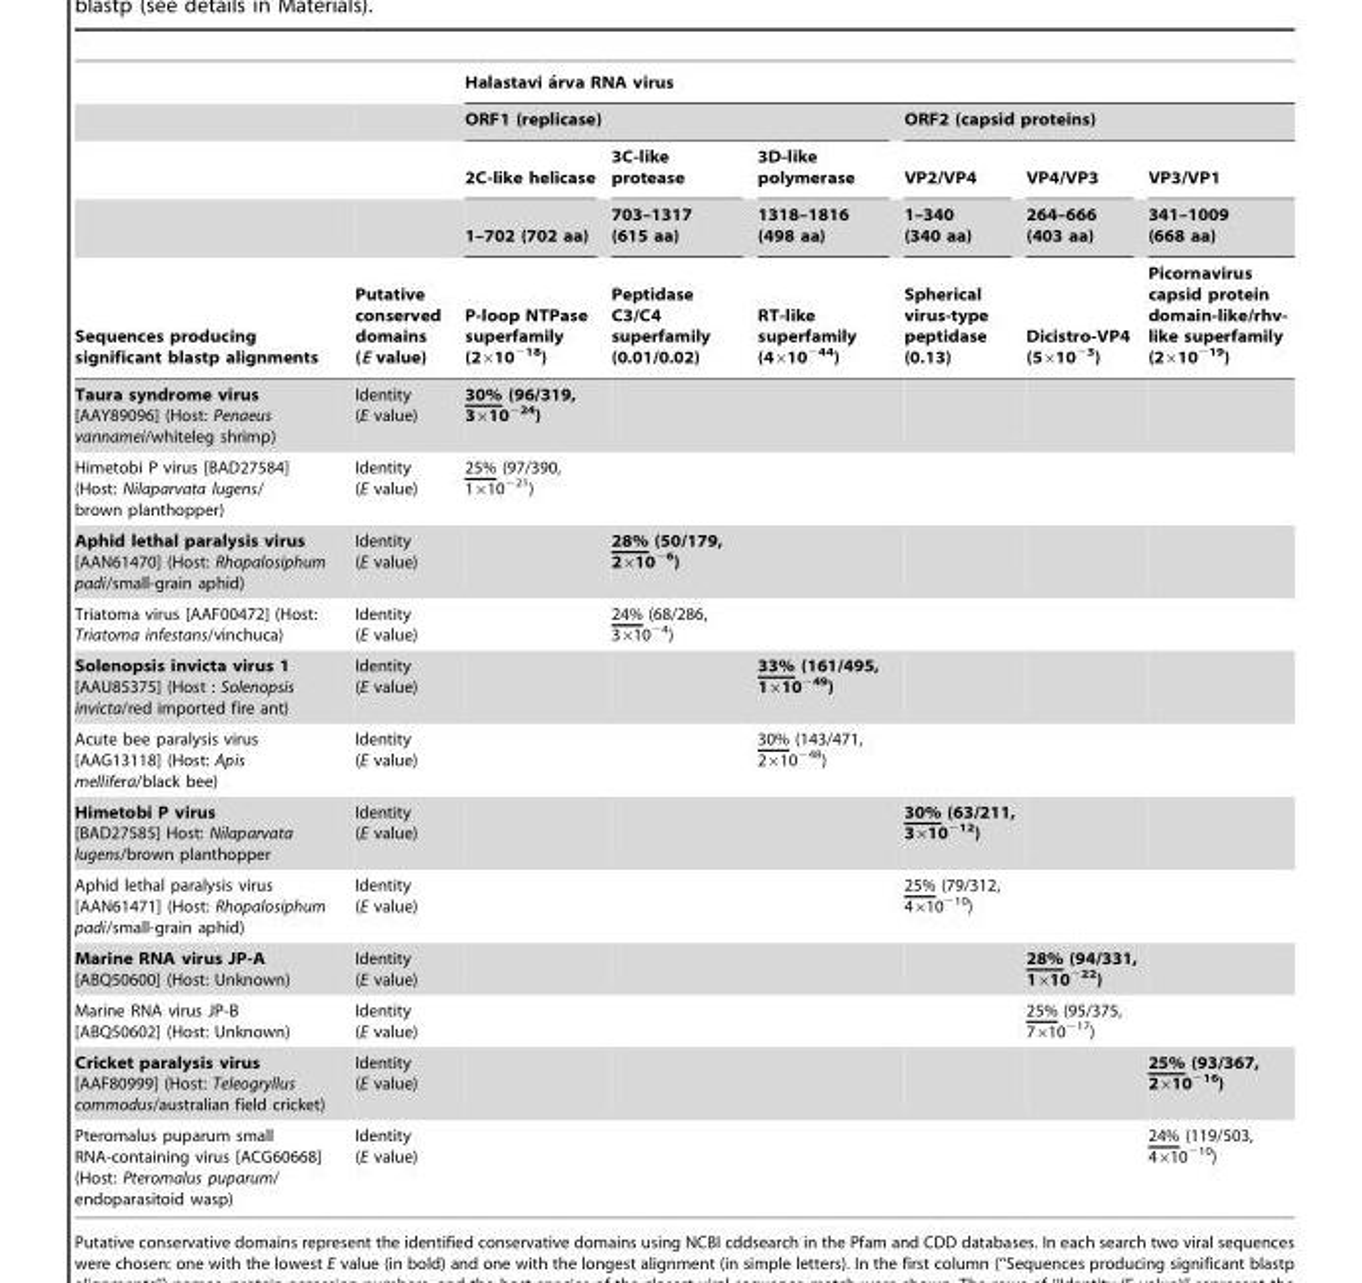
<table><thead><tr><td rowspan="5">Sequences producing significant blastp alignments</td><td rowspan="5">Putative conserved domains (E value)</td><td colspan="6">Halastavi a´rva RNA virus</td></tr><tr><td colspan="3">ORF1 (replicase)</td><td colspan="3">ORF2 (capsid proteins)</td></tr><tr><td rowspan="3">2C-like helicase 1–702 (702 aa) P-loop NTPase superfamily (2×10<sup>−18</sup>)</td><td rowspan="3">3C-like protease 703–1317 (615 aa) Peptidase C3/C4 superfamily (0.01/0.02)</td><td rowspan="3">3D-like polymerase 1318–1816 (498 aa) RT-like superfamily (4×10<sup>−44</sup>)</td><td rowspan="3">VP2/VP4 1–340 (340 aa) Spherical virus-type peptidase (0.13)</td><td rowspan="3">VP4/VP3 264–666 (403 aa) Dicistro-VP4 (5×10<sup>−3</sup>)</td><td rowspan="3">VP3/VP1 341–1009 (668 aa) Picornavirus capsid protein domain-like/rhv- like superfamily (2×10<sup>−19</sup>)</td></tr><tr></tr><tr></tr></thead><tbody><tr><td>Taura syndrome virus [AAY89096] (Host: Penaeus vannamei/whiteleg shrimp)</td><td>Identity (E value)</td><td>30% (96/319, 3×10<sup>−24</sup>)</td><td></td><td></td><td></td><td></td><td></td></tr><tr><td>Himetobi P virus [BAD27584] (Host: Nilaparvata lugens/ brown planthopper)</td><td>Identity (E value)</td><td>25% (97/390, 1×10<sup>−21</sup>)</td><td></td><td></td><td></td><td></td><td></td></tr><tr><td>Aphid lethal paralysis virus [AAN61470] (Host: Rhopalosiphum padi/small-grain aphid)</td><td>Identity (E value)</td><td></td><td>28% (50/179, 2×10<sup>−6</sup>)</td><td></td><td></td><td></td><td></td></tr><tr><td>Triatoma virus [AAF00472] (Host: Triatoma infestans/vinchuca)</td><td>Identity (E value)</td><td></td><td>24% (68/286, 3×10<sup>−4</sup>)</td><td></td><td></td><td></td><td></td></tr><tr><td>Solenopsis invicta virus 1 [AAU85375] (Host : Solenopsis invicta/red imported fire ant)</td><td>Identity (E value)</td><td></td><td></td><td>33% (161/495, 1×10<sup>−49</sup>)</td><td></td><td></td><td></td></tr><tr><td>Acute bee paralysis virus [AAG13118] (Host: Apis mellifera/black bee)</td><td>Identity (E value)</td><td></td><td></td><td>30% (143/471, 2×10<sup>−48</sup>)</td><td></td><td></td><td></td></tr><tr><td>Himetobi P virus [BAD27585] Host: Nilaparvata lugens/brown planthopper</td><td>Identity (E value)</td><td></td><td></td><td></td><td>30% (63/211, 3×10<sup>−12</sup>)</td><td></td><td></td></tr><tr><td>Aphid lethal paralysis virus [AAN61471] (Host: Rhopalosiphum padi/small-grain aphid)</td><td>Identity (E value)</td><td></td><td></td><td></td><td>25% (79/312, 4×10<sup>−10</sup>)</td><td></td><td></td></tr><tr><td>Marine RNA virus JP-A [ABQ50600] (Host: Unknown)</td><td>Identity (E value)</td><td></td><td></td><td></td><td></td><td>28% (94/331, 1×10<sup>−22</sup>)</td><td></td></tr><tr><td>Marine RNA virus JP-B [ABQ50602] (Host: Unknown)</td><td>Identity (E value)</td><td></td><td></td><td></td><td></td><td>25% (95/375, 7×10<sup>−17</sup>)</td><td></td></tr><tr><td>Cricket paralysis virus [AAF80999] (Host: Teleogryllus commodus/australian field cricket)</td><td>Identity (E value)</td><td></td><td></td><td></td><td></td><td></td><td>25% (93/367, 2×10<sup>−16</sup>)</td></tr><tr><td>Pteromalus puparum small RNA-containing virus [ACG60668] (Host: Pteromalus puparum/ endoparasitoid wasp)</td><td>Identity (E value)</td><td></td><td></td><td></td><td></td><td></td><td>24% (119/503, 4×10<sup>−10</sup>)</td></tr></tbody></table>